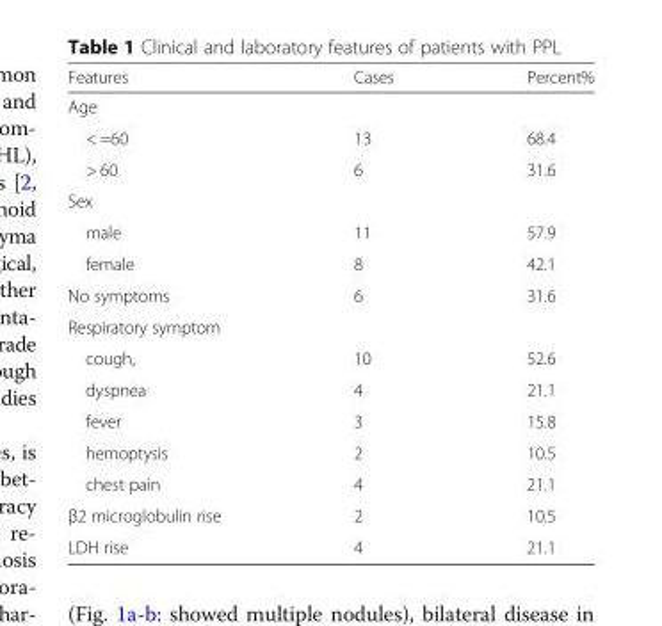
<table><thead><tr><td>Features</td><td>Cases</td><td>Percent%</td></tr></thead><tbody><tr><td colspan="3">Age</td></tr><tr><td>&lt; =60</td><td>13</td><td>68.4</td></tr><tr><td>&gt; 60</td><td>6</td><td>31.6</td></tr><tr><td colspan="3">Sex</td></tr><tr><td>male</td><td>11</td><td>57.9</td></tr><tr><td>female</td><td>8</td><td>42.1</td></tr><tr><td>No symptoms</td><td>6</td><td>31.6</td></tr><tr><td colspan="3">Respiratory symptom</td></tr><tr><td>cough,</td><td>10</td><td>52.6</td></tr><tr><td>dyspnea</td><td>4</td><td>21.1</td></tr><tr><td>fever</td><td>3</td><td>15.8</td></tr><tr><td>hemoptysis</td><td>2</td><td>10.5</td></tr><tr><td>chest pain</td><td>4</td><td>21.1</td></tr><tr><td>β2 microglobulin rise</td><td>2</td><td>10.5</td></tr><tr><td>LDH rise</td><td>4</td><td>21.1</td></tr></tbody></table>